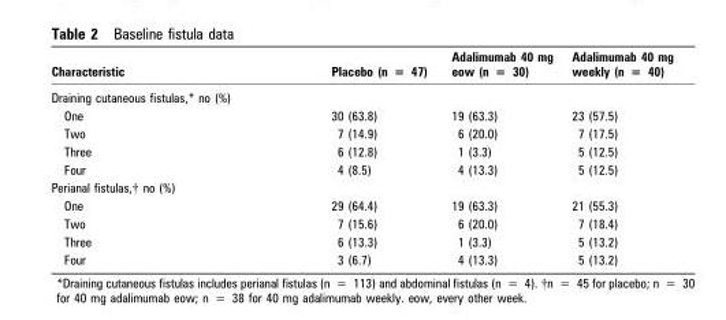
<table><thead><tr><td>Characteristic</td><td>Placebo (n = 47)</td><td>Adalimumab 40 mg eow (n = 30)</td><td>Adalimumab 40 mg weekly (n = 40)</td></tr></thead><tbody><tr><td colspan="4">Draining cutaneous fistulas,* no (%)</td></tr><tr><td>One</td><td>30 (63.8)</td><td>19 (63.3)</td><td>23 (57.5)</td></tr><tr><td>Two</td><td>7 (14.9)</td><td>6 (20.0)</td><td>7 (17.5)</td></tr><tr><td>Three</td><td>6 (12.8)</td><td>1 (3.3)</td><td>5 (12.5)</td></tr><tr><td>Four</td><td>4 (8.5)</td><td>4 (13.3)</td><td>5 (12.5)</td></tr><tr><td colspan="4">Perianal fistulas,† no (%)</td></tr><tr><td>One</td><td>29 (64.4)</td><td>19 (63.3)</td><td>21 (55.3)</td></tr><tr><td>Two</td><td>7 (15.6)</td><td>6 (20.0)</td><td>7 (18.4)</td></tr><tr><td>Three</td><td>6 (13.3)</td><td>1 (3.3)</td><td>5 (13.2)</td></tr><tr><td>Four</td><td>3 (6.7)</td><td>4 (13.3)</td><td>5 (13.2)</td></tr></tbody></table>